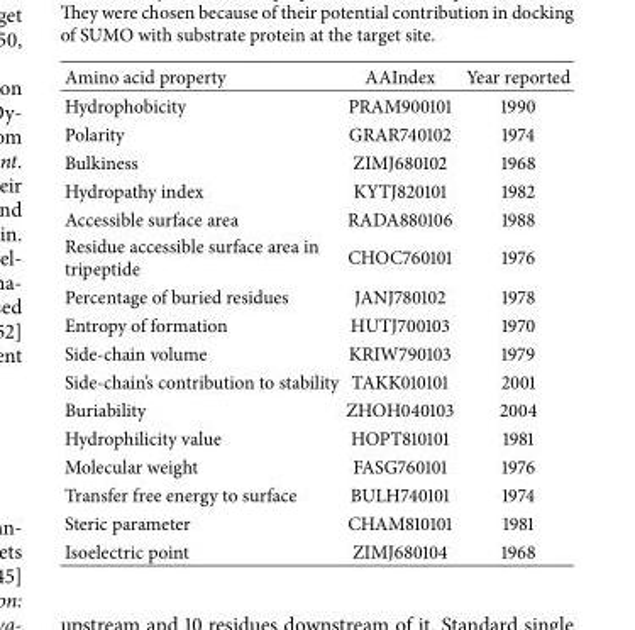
<table><thead><tr><td>Amino acid property</td><td>AAIndex</td><td>Year reported</td></tr></thead><tbody><tr><td>Hydrophobicity</td><td>PRAM900101</td><td>1990</td></tr><tr><td>Polarity</td><td>GRAR740102</td><td>1974</td></tr><tr><td>Bulkiness</td><td>ZIMJ680102</td><td>1968</td></tr><tr><td>Hydropathy index</td><td>KYTJ820101</td><td>1982</td></tr><tr><td>Accessible surface area</td><td>RADA880106</td><td>1988</td></tr><tr><td>Residue accessible surface area in tripeptide</td><td>CHOC760101</td><td>1976</td></tr><tr><td>Percentage of buried residues</td><td>JANJ780102</td><td>1978</td></tr><tr><td>Entropy of formation</td><td>HUTJ700103</td><td>1970</td></tr><tr><td>Side-chain volume</td><td>KRIW790103</td><td>1979</td></tr><tr><td>Side-chain’s contribution to stability</td><td>TAKK010101</td><td>2001</td></tr><tr><td>Buriability</td><td>ZHOH040103</td><td>2004</td></tr><tr><td>Hydrophilicity value</td><td>HOPT810101</td><td>1981</td></tr><tr><td>Molecular weight</td><td>FASG760101</td><td>1976</td></tr><tr><td>Transfer free energy to surface</td><td>BULH740101</td><td>1974</td></tr><tr><td>Steric parameter</td><td>CHAM810101</td><td>1981</td></tr><tr><td>Isoelectric point</td><td>ZIMJ680104</td><td>1968</td></tr></tbody></table>